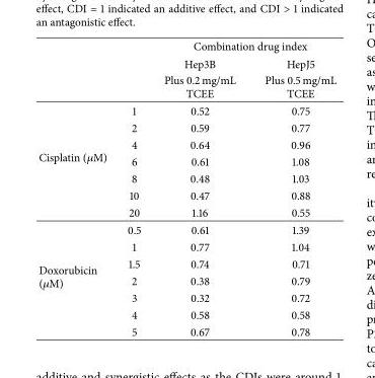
<table><thead><tr><td rowspan="3"></td><td rowspan="3"></td><td colspan="2">Combination drug index</td></tr><tr><td rowspan="2">Hep3B Plus 0.2 mg/mL TCEE</td><td rowspan="2">HepJ5 Plus 0.5 mg/mL TCEE</td></tr><tr></tr></thead><tbody><tr><td rowspan="7">Cisplatin (𝜇M)</td><td>1</td><td>0.52</td><td>0.75</td></tr><tr><td>2</td><td>0.59</td><td>0.77</td></tr><tr><td>4</td><td>0.64</td><td>0.96</td></tr><tr><td>6</td><td>0.61</td><td>1.08</td></tr><tr><td>8</td><td>0.48</td><td>1.03</td></tr><tr><td>10</td><td>0.47</td><td>0.88</td></tr><tr><td>20</td><td>1.16</td><td>0.55</td></tr><tr><td rowspan="7">Doxorubicin (𝜇M)</td><td>0.5</td><td>0.61</td><td>1.39</td></tr><tr><td>1</td><td>0.77</td><td>1.04</td></tr><tr><td>1.5</td><td>0.74</td><td>0.71</td></tr><tr><td>2</td><td>0.38</td><td>0.79</td></tr><tr><td>3</td><td>0.32</td><td>0.72</td></tr><tr><td>4</td><td>0.58</td><td>0.58</td></tr><tr><td>5</td><td>0.67</td><td>0.78</td></tr></tbody></table>